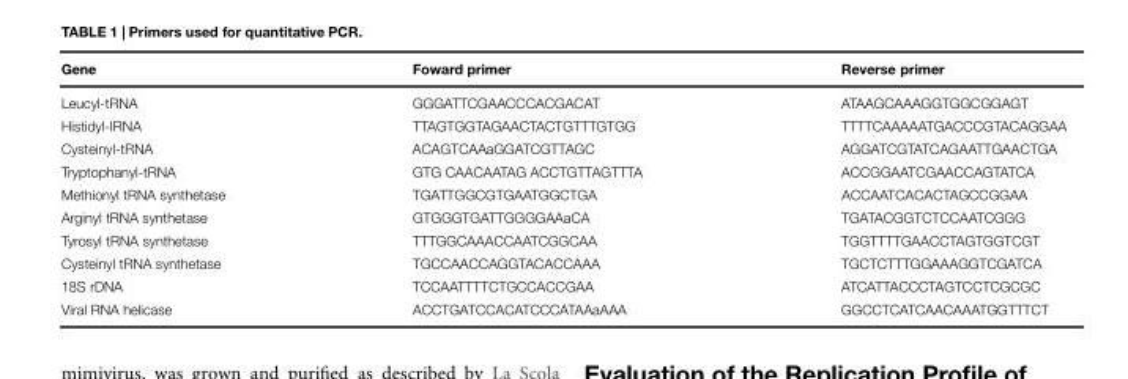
<table><thead><tr><td>Gene</td><td>Foward primer</td><td>Reverse primer</td></tr></thead><tbody><tr><td>Leucyl-tRNA</td><td>GGGATTCGAACCCACGACAT</td><td>ATAAGCAAAGGTGGCGGAGT</td></tr><tr><td>Histidyl-IRNA</td><td>TTAGTGGTAGAACTACTGTTTGTGG</td><td>TTTTCAAAAATGACCCGTACAGGAA</td></tr><tr><td>Cysteinyl-tRNA</td><td>ACAGTCAAaGGATCGTTAGC</td><td>AGGATCGTATCAGAATTGAACTGA</td></tr><tr><td>Tryptophanyl-tRNA</td><td>GTG CAACAATAG ACCTGTTAGTTTA</td><td>ACCGGAATCGAACCAGTATCA</td></tr><tr><td>Methionyl tRNA synthetase</td><td>TGATTGGCGTGAATGGCTGA</td><td>ACCAATCACACTAGCCGGAA</td></tr><tr><td>Arginyl tRNA synthetase</td><td>GTGGGTGATTGGGGAAaCA</td><td>TGATACGGTCTCCAATCGGG</td></tr><tr><td>Tyrosyl tRNA synthetase</td><td>TTTGGCAAACCAATCGGCAA</td><td>TGGTTTTGAACCTAGTGGTCGT</td></tr><tr><td>Cysteinyl tRNA synthetase</td><td>TGCCAACCAGGTACACCAAA</td><td>TGCTCTTTGGAAAGGTCGATCA</td></tr><tr><td>18S rDNA</td><td>TCCAATTTTCTGCCACCGAA</td><td>ATCATTACCCTAGTCCTCGCGC</td></tr><tr><td>Viral RNA helicase</td><td>ACCTGATCCACATCCCATAAaAAA</td><td>GGCCTCATCAACAAATGGTTTCT</td></tr></tbody></table>